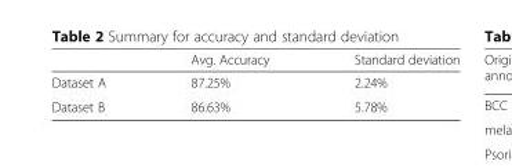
<table><thead><tr><td></td><td>Avg. Accuracy</td><td>Standard deviation</td></tr></thead><tbody><tr><td>Dataset A</td><td>87.25%</td><td>2.24%</td></tr><tr><td>Dataset B</td><td>86.63%</td><td>5.78%</td></tr></tbody></table>